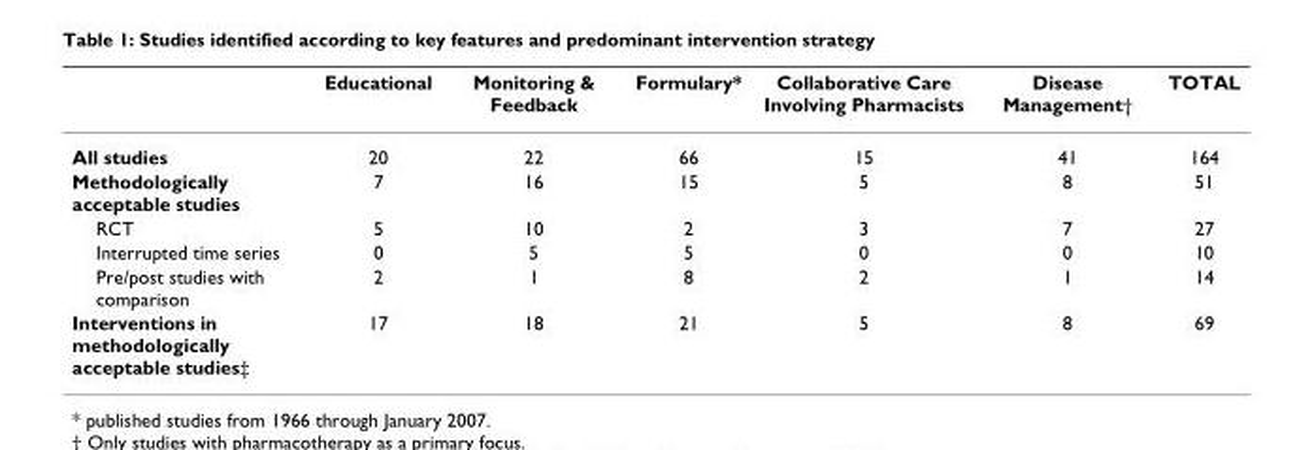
<table><thead><tr><td></td><td>Educational</td><td>Monitoring &amp; Feedback</td><td>Formulary*</td><td>Collaborative Care Involving Pharmacists</td><td>Disease Management†</td><td>TOTAL</td></tr></thead><tbody><tr><td>All studies</td><td>20</td><td>22</td><td>66</td><td>15</td><td>41</td><td>164</td></tr><tr><td>Methodologically acceptable studies</td><td>7</td><td>16</td><td>15</td><td>5</td><td>8</td><td>51</td></tr><tr><td>RCT</td><td>5</td><td>10</td><td>2</td><td>3</td><td>7</td><td>27</td></tr><tr><td>Interrupted time series</td><td>0</td><td>5</td><td>5</td><td>0</td><td>0</td><td>10</td></tr><tr><td>Pre/post studies with comparison</td><td>2</td><td>1</td><td>8</td><td>2</td><td>1</td><td>14</td></tr><tr><td>Interventions in methodologically acceptable studies‡</td><td>17</td><td>18</td><td>21</td><td>5</td><td>8</td><td>69</td></tr></tbody></table>